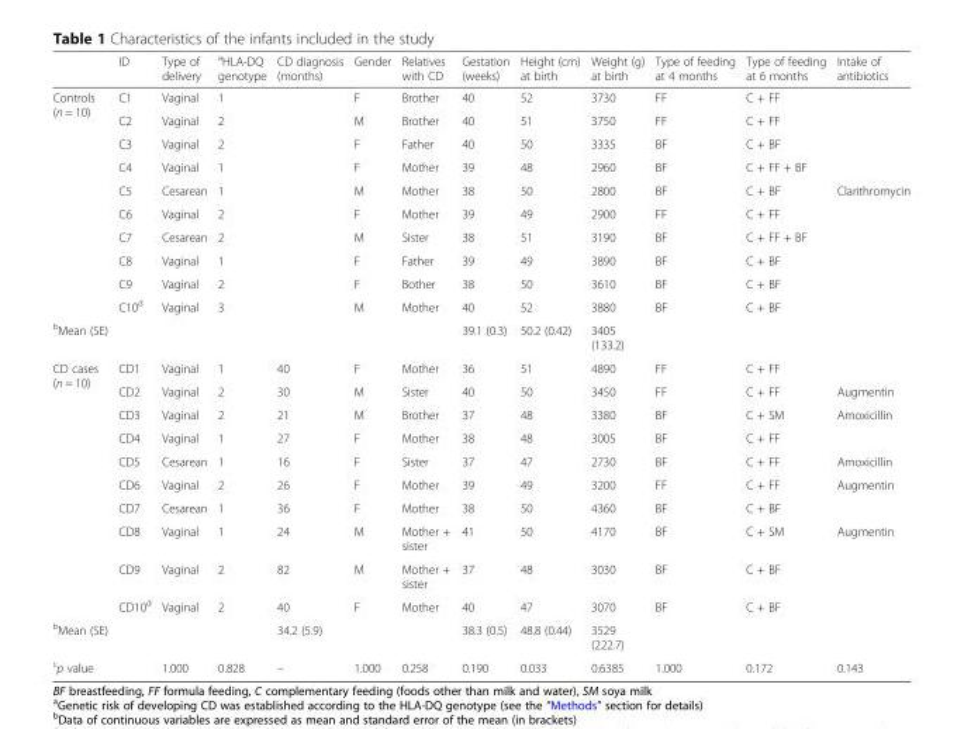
<table><thead><tr><td></td><td>ID</td><td>Type of delivery</td><td><sup>a</sup>HLA-DQ genotype</td><td>CD diagnosis (months)</td><td>Gender</td><td>Relatives with CD</td><td>Gestation (weeks)</td><td>Height (cm) at birth</td><td>Weight (g) at birth</td><td>Type of feeding at 4 months</td><td>Type of feeding at 6 months</td><td>Intake of antibiotics</td></tr></thead><tbody><tr><td rowspan="10">Controls (n = 10)</td><td>C1</td><td>Vaginal</td><td>1</td><td rowspan="10"></td><td>F</td><td>Brother</td><td>40</td><td>52</td><td>3730</td><td>FF</td><td>C + FF</td><td></td></tr><tr><td>C2</td><td>Vaginal</td><td>2</td><td>M</td><td>Brother</td><td>40</td><td>51</td><td>3750</td><td>FF</td><td>C + FF</td><td></td></tr><tr><td>C3</td><td>Vaginal</td><td>2</td><td>F</td><td>Father</td><td>40</td><td>50</td><td>3335</td><td>BF</td><td>C + BF</td><td></td></tr><tr><td>C4</td><td>Vaginal</td><td>1</td><td>F</td><td>Mother</td><td>39</td><td>48</td><td>2960</td><td>BF</td><td>C + FF + BF</td><td></td></tr><tr><td>C5</td><td>Cesarean</td><td>1</td><td>M</td><td>Mother</td><td>38</td><td>50</td><td>2800</td><td>BF</td><td>C + BF</td><td>Clarithromycin</td></tr><tr><td>C6</td><td>Vaginal</td><td>2</td><td>F</td><td>Mother</td><td>39</td><td>49</td><td>2900</td><td>FF</td><td>C + FF</td><td></td></tr><tr><td>C7</td><td>Cesarean</td><td>2</td><td>M</td><td>Sister</td><td>38</td><td>51</td><td>3190</td><td>BF</td><td>C + FF + BF</td><td></td></tr><tr><td>C8</td><td>Vaginal</td><td>1</td><td>F</td><td>Father</td><td>39</td><td>49</td><td>3890</td><td>BF</td><td>C + BF</td><td></td></tr><tr><td>C9</td><td>Vaginal</td><td>2</td><td>F</td><td>Bother</td><td>38</td><td>50</td><td>3610</td><td>BF</td><td>C + BF</td><td></td></tr><tr><td>C10<sup>d</sup></td><td>Vaginal</td><td>3</td><td>M</td><td>Mother</td><td>40</td><td>52</td><td>3880</td><td>BF</td><td>C + BF</td><td></td></tr><tr><td><sup>b</sup>Mean (SE)</td><td></td><td></td><td></td><td></td><td></td><td></td><td>39.1 (0.3)</td><td>50.2 (0.42)</td><td>3405 (133.2)</td><td></td><td></td><td></td></tr><tr><td rowspan="10">CD cases (n = 10)</td><td>CD1</td><td>Vaginal</td><td>1</td><td>40</td><td>F</td><td>Mother</td><td>36</td><td>51</td><td>4890</td><td>FF</td><td>C + FF</td><td></td></tr><tr><td>CD2</td><td>Vaginal</td><td>2</td><td>30</td><td>M</td><td>Sister</td><td>40</td><td>50</td><td>3450</td><td>FF</td><td>C + FF</td><td>Augmentin</td></tr><tr><td>CD3</td><td>Vaginal</td><td>2</td><td>21</td><td>M</td><td>Brother</td><td>37</td><td>48</td><td>3380</td><td>BF</td><td>C + SM</td><td>Amoxicillin</td></tr><tr><td>CD4</td><td>Vaginal</td><td>1</td><td>27</td><td>F</td><td>Mother</td><td>38</td><td>48</td><td>3005</td><td>BF</td><td>C + FF</td><td></td></tr><tr><td>CD5</td><td>Cesarean</td><td>1</td><td>16</td><td>F</td><td>Sister</td><td>37</td><td>47</td><td>2730</td><td>BF</td><td>C + FF</td><td>Amoxicillin</td></tr><tr><td>CD6</td><td>Vaginal</td><td>2</td><td>26</td><td>F</td><td>Mother</td><td>39</td><td>49</td><td>3200</td><td>FF</td><td>C + FF</td><td>Augmentin</td></tr><tr><td>CD7</td><td>Cesarean</td><td>1</td><td>36</td><td>F</td><td>Mother</td><td>38</td><td>50</td><td>4360</td><td>BF</td><td>C + BF</td><td></td></tr><tr><td>CD8</td><td>Vaginal</td><td>1</td><td>24</td><td>M</td><td>Mother + sister</td><td>41</td><td>50</td><td>4170</td><td>BF</td><td>C + SM</td><td>Augmentin</td></tr><tr><td>CD9</td><td>Vaginal</td><td>2</td><td>82</td><td>M</td><td>Mother + sister</td><td>37</td><td>48</td><td>3030</td><td>BF</td><td>C + BF</td><td></td></tr><tr><td>CD10<sup>d</sup></td><td>Vaginal</td><td>2</td><td>40</td><td>F</td><td>Mother</td><td>40</td><td>47</td><td>3070</td><td>BF</td><td>C + BF</td><td></td></tr><tr><td><sup>b</sup>Mean (SE)</td><td></td><td></td><td></td><td>34.2 (5.9)</td><td></td><td></td><td>38.3 (0.5)</td><td>48.8 (0.44)</td><td>3529 (222.7)</td><td></td><td></td><td></td></tr><tr><td><sup>c</sup>p value</td><td></td><td>1.000</td><td>0.828</td><td>–</td><td>1.000</td><td>0.258</td><td>0.190</td><td>0.033</td><td>0.6385</td><td>1.000</td><td>0.172</td><td>0.143</td></tr></tbody></table>